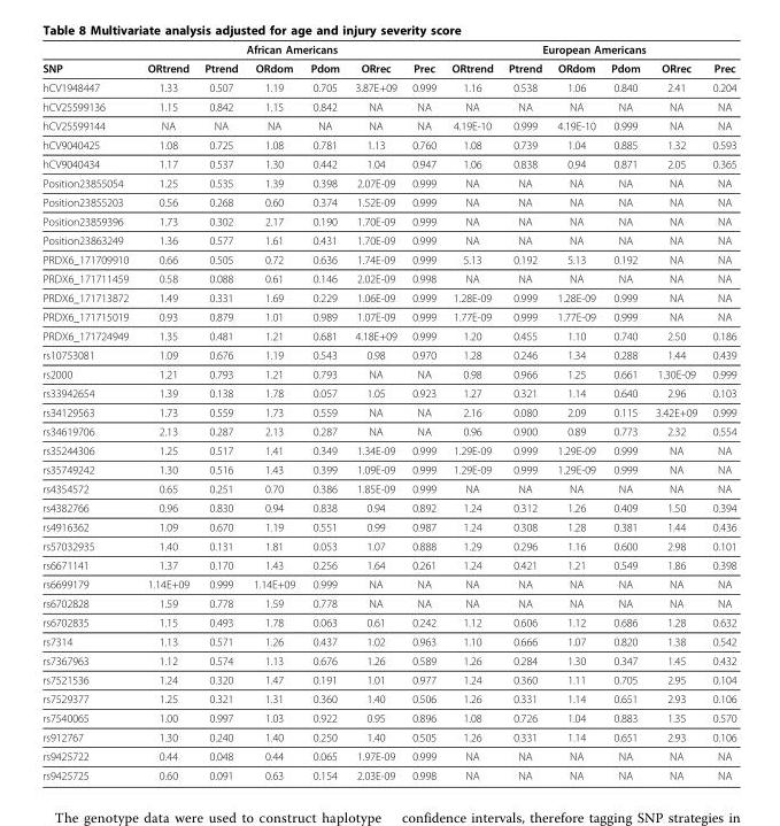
<table><thead><tr><td rowspan="2">SNP</td><td colspan="6">African Americans</td><td colspan="6">European Americans</td></tr><tr><td>ORtrend</td><td>Ptrend</td><td>ORdom</td><td>Pdom</td><td>ORrec</td><td>Prec</td><td>ORtrend</td><td>Ptrend</td><td>ORdom</td><td>Pdom</td><td>ORrec</td><td>Prec</td></tr></thead><tbody><tr><td>hCV1948447</td><td>1.33</td><td>0.507</td><td>1.19</td><td>0.705</td><td>3.87E+09</td><td>0.999</td><td>1.16</td><td>0.538</td><td>1.06</td><td>0.840</td><td>2.41</td><td>0.204</td></tr><tr><td>hCV25599136</td><td>1.15</td><td>0.842</td><td>1.15</td><td>0.842</td><td>NA</td><td>NA</td><td>NA</td><td>NA</td><td>NA</td><td>NA</td><td>NA</td><td>NA</td></tr><tr><td>hCV25599144</td><td>NA</td><td>NA</td><td>NA</td><td>NA</td><td>NA</td><td>NA</td><td>4.19E-10</td><td>0.999</td><td>4.19E-10</td><td>0.999</td><td>NA</td><td>NA</td></tr><tr><td>hCV9040425</td><td>1.08</td><td>0.725</td><td>1.08</td><td>0.781</td><td>1.13</td><td>0.760</td><td>1.08</td><td>0.739</td><td>1.04</td><td>0.885</td><td>1.32</td><td>0.593</td></tr><tr><td>hCV9040434</td><td>1.17</td><td>0.537</td><td>1.30</td><td>0.442</td><td>1.04</td><td>0.947</td><td>1.06</td><td>0.838</td><td>0.94</td><td>0.871</td><td>2.05</td><td>0.365</td></tr><tr><td>Position23855054</td><td>1.25</td><td>0.535</td><td>1.39</td><td>0.398</td><td>2.07E-09</td><td>0.999</td><td>NA</td><td>NA</td><td>NA</td><td>NA</td><td>NA</td><td>NA</td></tr><tr><td>Position23855203</td><td>0.56</td><td>0.268</td><td>0.60</td><td>0.374</td><td>1.52E-09</td><td>0.999</td><td>NA</td><td>NA</td><td>NA</td><td>NA</td><td>NA</td><td>NA</td></tr><tr><td>Position23859396</td><td>1.73</td><td>0.302</td><td>2.17</td><td>0.190</td><td>1.70E-09</td><td>0.999</td><td>NA</td><td>NA</td><td>NA</td><td>NA</td><td>NA</td><td>NA</td></tr><tr><td>Position23863249</td><td>1.36</td><td>0.577</td><td>1.61</td><td>0.431</td><td>1.70E-09</td><td>0.999</td><td>NA</td><td>NA</td><td>NA</td><td>NA</td><td>NA</td><td>NA</td></tr><tr><td>PRDX6_171709910</td><td>0.66</td><td>0.505</td><td>0.72</td><td>0.636</td><td>1.74E-09</td><td>0.999</td><td>5.13</td><td>0.192</td><td>5.13</td><td>0.192</td><td>NA</td><td>NA</td></tr><tr><td>PRDX6_171711459</td><td>0.58</td><td>0.088</td><td>0.61</td><td>0.146</td><td>2.02E-09</td><td>0.998</td><td>NA</td><td>NA</td><td>NA</td><td>NA</td><td>NA</td><td>NA</td></tr><tr><td>PRDX6_171713872</td><td>1.49</td><td>0.331</td><td>1.69</td><td>0.229</td><td>1.06E-09</td><td>0.999</td><td>1.28E-09</td><td>0.999</td><td>1.28E-09</td><td>0.999</td><td>NA</td><td>NA</td></tr><tr><td>PRDX6_171715019</td><td>0.93</td><td>0.879</td><td>1.01</td><td>0.989</td><td>1.07E-09</td><td>0.999</td><td>1.77E-09</td><td>0.999</td><td>1.77E-09</td><td>0.999</td><td>NA</td><td>NA</td></tr><tr><td>PRDX6_171724949</td><td>1.35</td><td>0.481</td><td>1.21</td><td>0.681</td><td>4.18E+09</td><td>0.999</td><td>1.20</td><td>0.455</td><td>1.10</td><td>0.740</td><td>2.50</td><td>0.186</td></tr><tr><td>rs10753081</td><td>1.09</td><td>0.676</td><td>1.19</td><td>0.543</td><td>0.98</td><td>0.970</td><td>1.28</td><td>0.246</td><td>1.34</td><td>0.288</td><td>1.44</td><td>0.439</td></tr><tr><td>rs2000</td><td>1.21</td><td>0.793</td><td>1.21</td><td>0.793</td><td>NA</td><td>NA</td><td>0.98</td><td>0.966</td><td>1.25</td><td>0.661</td><td>1.30E-09</td><td>0.999</td></tr><tr><td>rs33942654</td><td>1.39</td><td>0.138</td><td>1.78</td><td>0.057</td><td>1.05</td><td>0.923</td><td>1.27</td><td>0.321</td><td>1.14</td><td>0.640</td><td>2.96</td><td>0.103</td></tr><tr><td>rs34129563</td><td>1.73</td><td>0.559</td><td>1.73</td><td>0.559</td><td>NA</td><td>NA</td><td>2.16</td><td>0.080</td><td>2.09</td><td>0.115</td><td>3.42E+09</td><td>0.999</td></tr><tr><td>rs34619706</td><td>2.13</td><td>0.287</td><td>2.13</td><td>0.287</td><td>NA</td><td>NA</td><td>0.96</td><td>0.900</td><td>0.89</td><td>0.773</td><td>2.32</td><td>0.554</td></tr><tr><td>rs35244306</td><td>1.25</td><td>0.517</td><td>1.41</td><td>0.349</td><td>1.34E-09</td><td>0.999</td><td>1.29E-09</td><td>0.999</td><td>1.29E-09</td><td>0.999</td><td>NA</td><td>NA</td></tr><tr><td>rs35749242</td><td>1.30</td><td>0.516</td><td>1.43</td><td>0.399</td><td>1.09E-09</td><td>0.999</td><td>1.29E-09</td><td>0.999</td><td>1.29E-09</td><td>0.999</td><td>NA</td><td>NA</td></tr><tr><td>rs4354572</td><td>0.65</td><td>0.251</td><td>0.70</td><td>0.386</td><td>1.85E-09</td><td>0.999</td><td>NA</td><td>NA</td><td>NA</td><td>NA</td><td>NA</td><td>NA</td></tr><tr><td>rs4382766</td><td>0.96</td><td>0.830</td><td>0.94</td><td>0.838</td><td>0.94</td><td>0.892</td><td>1.24</td><td>0.312</td><td>1.26</td><td>0.409</td><td>1.50</td><td>0.394</td></tr><tr><td>rs4916362</td><td>1.09</td><td>0.670</td><td>1.19</td><td>0.551</td><td>0.99</td><td>0.987</td><td>1.24</td><td>0.308</td><td>1.28</td><td>0.381</td><td>1.44</td><td>0.436</td></tr><tr><td>rs57032935</td><td>1.40</td><td>0.131</td><td>1.81</td><td>0.053</td><td>1.07</td><td>0.888</td><td>1.29</td><td>0.296</td><td>1.16</td><td>0.600</td><td>2.98</td><td>0.101</td></tr><tr><td>rs6671141</td><td>1.37</td><td>0.170</td><td>1.43</td><td>0.256</td><td>1.64</td><td>0.261</td><td>1.24</td><td>0.421</td><td>1.21</td><td>0.549</td><td>1.86</td><td>0.398</td></tr><tr><td>rs6699179</td><td>1.14E+09</td><td>0.999</td><td>1.14E+09</td><td>0.999</td><td>NA</td><td>NA</td><td>NA</td><td>NA</td><td>NA</td><td>NA</td><td>NA</td><td>NA</td></tr><tr><td>rs6702828</td><td>1.59</td><td>0.778</td><td>1.59</td><td>0.778</td><td>NA</td><td>NA</td><td>NA</td><td>NA</td><td>NA</td><td>NA</td><td>NA</td><td>NA</td></tr><tr><td>rs6702835</td><td>1.15</td><td>0.493</td><td>1.78</td><td>0.063</td><td>0.61</td><td>0.242</td><td>1.12</td><td>0.606</td><td>1.12</td><td>0.686</td><td>1.28</td><td>0.632</td></tr><tr><td>rs7314</td><td>1.13</td><td>0.571</td><td>1.26</td><td>0.437</td><td>1.02</td><td>0.963</td><td>1.10</td><td>0.666</td><td>1.07</td><td>0.820</td><td>1.38</td><td>0.542</td></tr><tr><td>rs7367963</td><td>1.12</td><td>0.574</td><td>1.13</td><td>0.676</td><td>1.26</td><td>0.589</td><td>1.26</td><td>0.284</td><td>1.30</td><td>0.347</td><td>1.45</td><td>0.432</td></tr><tr><td>rs7521536</td><td>1.24</td><td>0.320</td><td>1.47</td><td>0.191</td><td>1.01</td><td>0.977</td><td>1.24</td><td>0.360</td><td>1.11</td><td>0.705</td><td>2.95</td><td>0.104</td></tr><tr><td>rs7529377</td><td>1.25</td><td>0.321</td><td>1.31</td><td>0.360</td><td>1.40</td><td>0.506</td><td>1.26</td><td>0.331</td><td>1.14</td><td>0.651</td><td>2.93</td><td>0.106</td></tr><tr><td>rs7540065</td><td>1.00</td><td>0.997</td><td>1.03</td><td>0.922</td><td>0.95</td><td>0.896</td><td>1.08</td><td>0.726</td><td>1.04</td><td>0.883</td><td>1.35</td><td>0.570</td></tr><tr><td>rs912767</td><td>1.30</td><td>0.240</td><td>1.40</td><td>0.250</td><td>1.40</td><td>0.505</td><td>1.26</td><td>0.331</td><td>1.14</td><td>0.651</td><td>2.93</td><td>0.106</td></tr><tr><td>rs9425722</td><td>0.44</td><td>0.048</td><td>0.44</td><td>0.065</td><td>1.97E-09</td><td>0.999</td><td>NA</td><td>NA</td><td>NA</td><td>NA</td><td>NA</td><td>NA</td></tr><tr><td>rs9425725</td><td>0.60</td><td>0.091</td><td>0.63</td><td>0.154</td><td>2.03E-09</td><td>0.998</td><td>NA</td><td>NA</td><td>NA</td><td>NA</td><td>NA</td><td>NA</td></tr></tbody></table>